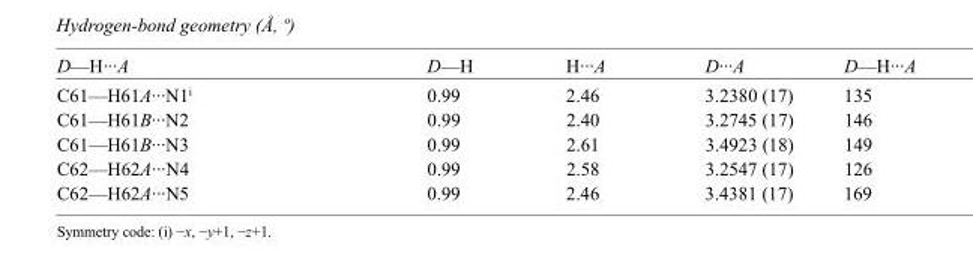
<table><tbody><tr><td>D—H···A</td><td>D—H</td><td>H···A</td><td>D···A</td><td>D—H···A</td></tr><tr><td>C61—H61A···N1<sup>i</sup></td><td>0.99</td><td>2.46</td><td>3.2380 (17)</td><td>135</td></tr><tr><td>C61—H61B···N2</td><td>0.99</td><td>2.40</td><td>3.2745 (17)</td><td>146</td></tr><tr><td>C61—H61B···N3</td><td>0.99</td><td>2.61</td><td>3.4923 (18)</td><td>149</td></tr><tr><td>C62—H62A···N4</td><td>0.99</td><td>2.58</td><td>3.2547 (17)</td><td>126</td></tr><tr><td>C62—H62A···N5</td><td>0.99</td><td>2.46</td><td>3.4381 (17)</td><td>169</td></tr></tbody></table>